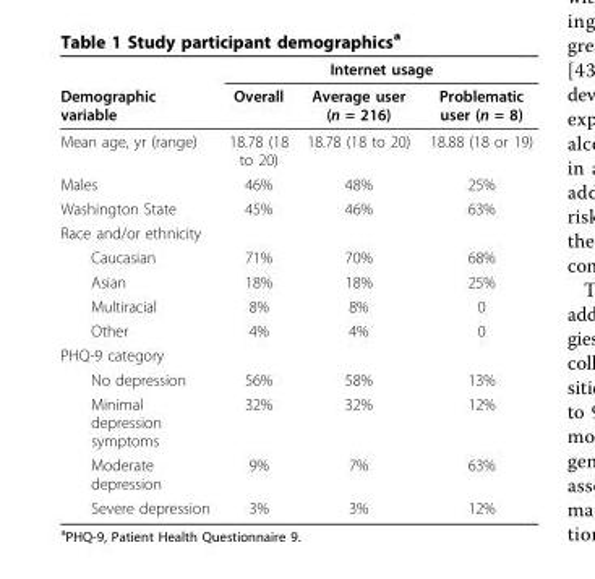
<table><thead><tr><td rowspan="2">Demographic variable</td><td colspan="3">Internet usage</td></tr><tr><td>Overall</td><td>Average user (n = 216)</td><td>Problematic user (n = 8)</td></tr></thead><tbody><tr><td>Mean age, yr (range)</td><td>18.78 (18 to 20)</td><td>18.78 (18 to 20)</td><td>18.88 (18 or 19)</td></tr><tr><td>Males</td><td>46%</td><td>48%</td><td>25%</td></tr><tr><td>Washington State</td><td>45%</td><td>46%</td><td>63%</td></tr><tr><td colspan="4">Race and/or ethnicity</td></tr><tr><td>Caucasian</td><td>71%</td><td>70%</td><td>68%</td></tr><tr><td>Asian</td><td>18%</td><td>18%</td><td>25%</td></tr><tr><td>Multiracial</td><td>8%</td><td>8%</td><td>0</td></tr><tr><td>Other</td><td>4%</td><td>4%</td><td>0</td></tr><tr><td colspan="4">PHQ-9 category</td></tr><tr><td>No depression</td><td>56%</td><td>58%</td><td>13%</td></tr><tr><td>Minimal depression symptoms</td><td>32%</td><td>32%</td><td>12%</td></tr><tr><td>Moderate depression</td><td>9%</td><td>7%</td><td>63%</td></tr><tr><td>Severe depression</td><td>3%</td><td>3%</td><td>12%</td></tr></tbody></table>